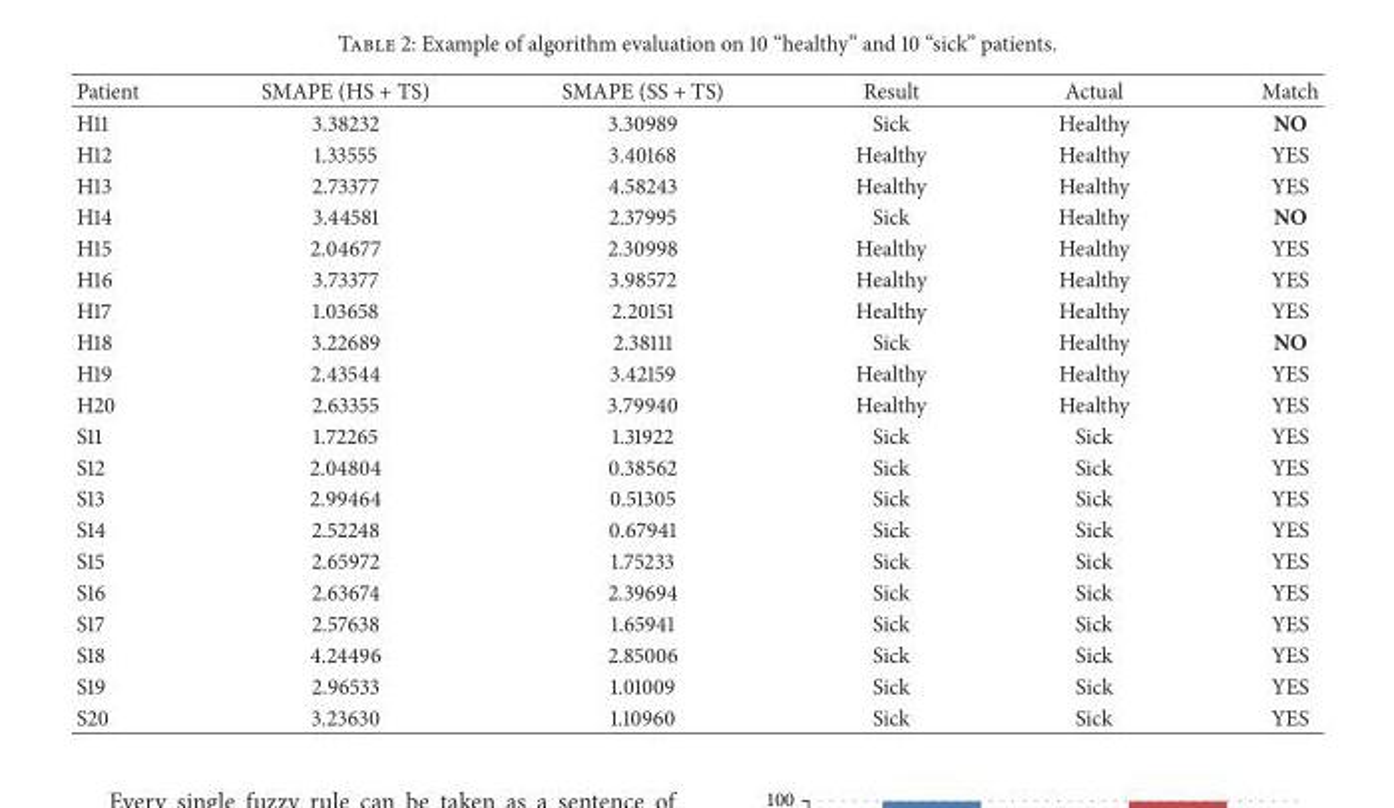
<table><thead><tr><td>Patient</td><td>SMAPE (HS + TS)</td><td>SMAPE (SS + TS)</td><td>Result</td><td>Actual</td><td>Match</td></tr></thead><tbody><tr><td>H11</td><td>3.38232</td><td>3.30989</td><td>Sick</td><td>Healthy</td><td>NO</td></tr><tr><td>H12</td><td>1.33555</td><td>3.40168</td><td>Healthy</td><td>Healthy</td><td>YES</td></tr><tr><td>H13</td><td>2.73377</td><td>4.58243</td><td>Healthy</td><td>Healthy</td><td>YES</td></tr><tr><td>H14</td><td>3.44581</td><td>2.37995</td><td>Sick</td><td>Healthy</td><td>NO</td></tr><tr><td>H15</td><td>2.04677</td><td>2.30998</td><td>Healthy</td><td>Healthy</td><td>YES</td></tr><tr><td>H16</td><td>3.73377</td><td>3.98572</td><td>Healthy</td><td>Healthy</td><td>YES</td></tr><tr><td>H17</td><td>1.03658</td><td>2.20151</td><td>Healthy</td><td>Healthy</td><td>YES</td></tr><tr><td>H18</td><td>3.22689</td><td>2.38111</td><td>Sick</td><td>Healthy</td><td>NO</td></tr><tr><td>H19</td><td>2.43544</td><td>3.42159</td><td>Healthy</td><td>Healthy</td><td>YES</td></tr><tr><td>H20</td><td>2.63355</td><td>3.79940</td><td>Healthy</td><td>Healthy</td><td>YES</td></tr><tr><td>S11</td><td>1.72265</td><td>1.31922</td><td>Sick</td><td>Sick</td><td>YES</td></tr><tr><td>S12</td><td>2.04804</td><td>0.38562</td><td>Sick</td><td>Sick</td><td>YES</td></tr><tr><td>S13</td><td>2.99464</td><td>0.51305</td><td>Sick</td><td>Sick</td><td>YES</td></tr><tr><td>S14</td><td>2.52248</td><td>0.67941</td><td>Sick</td><td>Sick</td><td>YES</td></tr><tr><td>S15</td><td>2.65972</td><td>1.75233</td><td>Sick</td><td>Sick</td><td>YES</td></tr><tr><td>S16</td><td>2.63674</td><td>2.39694</td><td>Sick</td><td>Sick</td><td>YES</td></tr><tr><td>S17</td><td>2.57638</td><td>1.65941</td><td>Sick</td><td>Sick</td><td>YES</td></tr><tr><td>S18</td><td>4.24496</td><td>2.85006</td><td>Sick</td><td>Sick</td><td>YES</td></tr><tr><td>S19</td><td>2.96533</td><td>1.01009</td><td>Sick</td><td>Sick</td><td>YES</td></tr><tr><td>S20</td><td>3.23630</td><td>1.10960</td><td>Sick</td><td>Sick</td><td>YES</td></tr></tbody></table>